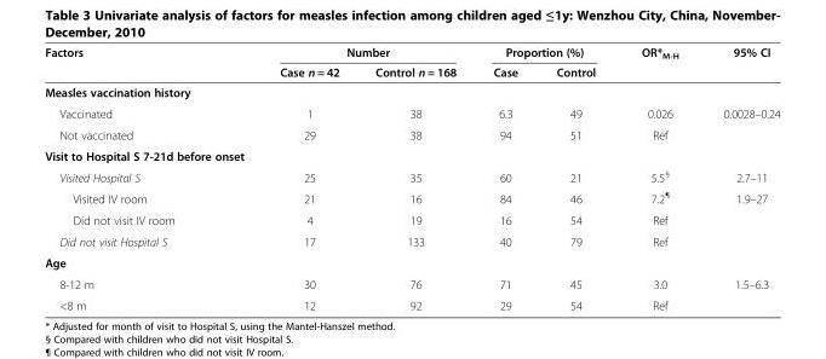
<table><thead><tr><td rowspan="2">Factors</td><td colspan="2">Number</td><td colspan="2">Proportion (%)</td><td rowspan="2">OR*<sub>M-H</sub></td><td rowspan="2">95% CI</td></tr><tr><td>Case n = 42</td><td>Control n = 168</td><td>Case</td><td>Control</td></tr></thead><tbody><tr><td colspan="7">Measles vaccination history</td></tr><tr><td>Vaccinated</td><td>1</td><td>38</td><td>6.3</td><td>49</td><td>0.026</td><td>0.0028–0.24</td></tr><tr><td>Not vaccinated</td><td>29</td><td>38</td><td>94</td><td>51</td><td>Ref</td><td></td></tr><tr><td colspan="7">Visit to Hospital S 7-21d before onset</td></tr><tr><td>Visited Hospital S</td><td>25</td><td>35</td><td>60</td><td>21</td><td>5.5<sup>§</sup></td><td>2.7–11</td></tr><tr><td>Visited IV room</td><td>21</td><td>16</td><td>84</td><td>46</td><td>7.2<sup>¶</sup></td><td>1.9–27</td></tr><tr><td>Did not visit IV room</td><td>4</td><td>19</td><td>16</td><td>54</td><td>Ref</td><td></td></tr><tr><td>Did not visit Hospital S</td><td>17</td><td>133</td><td>40</td><td>79</td><td>Ref</td><td></td></tr><tr><td colspan="7">Age</td></tr><tr><td>8-12 m</td><td>30</td><td>76</td><td>71</td><td>45</td><td>3.0</td><td>1.5–6.3</td></tr><tr><td>&lt;8 m</td><td>12</td><td>92</td><td>29</td><td>54</td><td>Ref</td><td></td></tr></tbody></table>